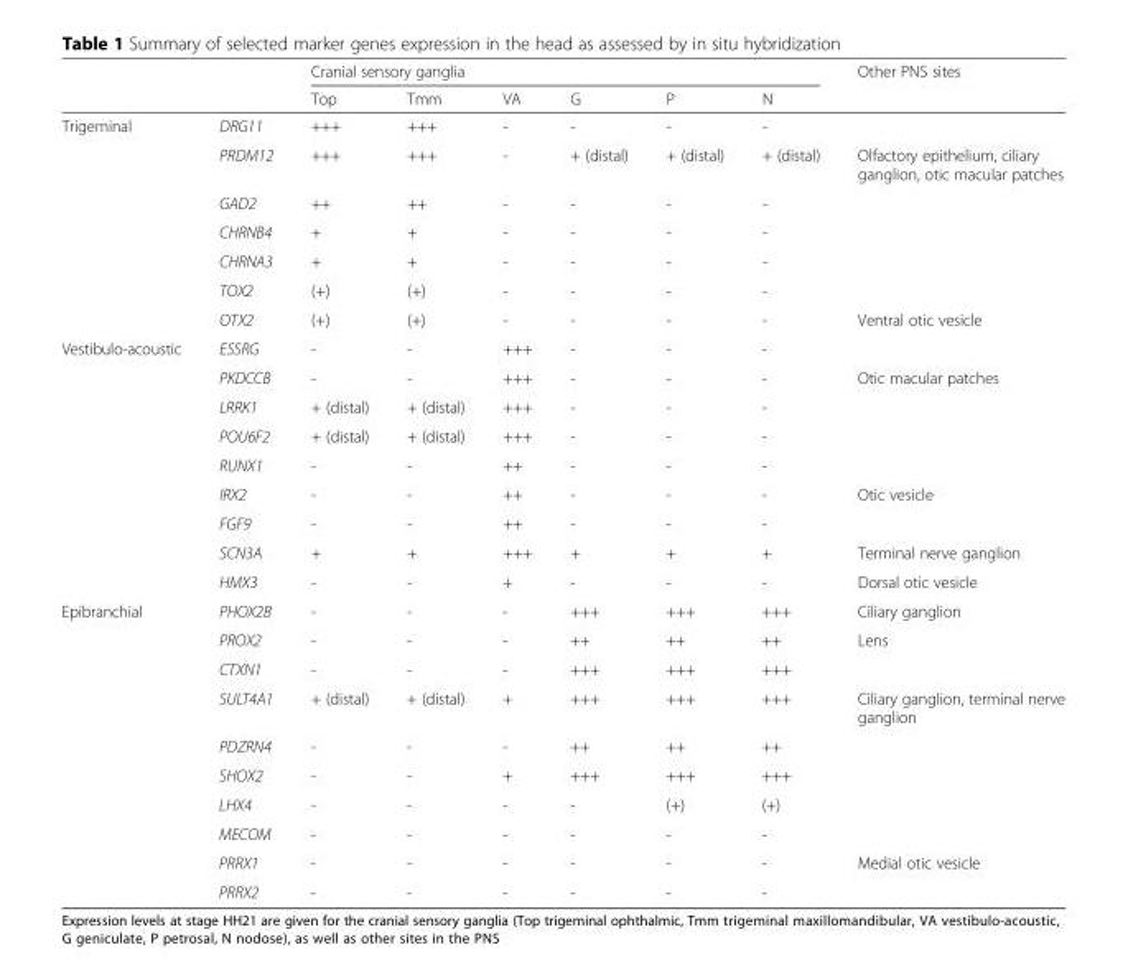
<table><thead><tr><td rowspan="2"></td><td rowspan="2"></td><td colspan="6">Cranial sensory ganglia</td><td rowspan="2">Other PNS sites</td></tr><tr><td>Top</td><td>Tmm</td><td>VA</td><td>G</td><td>P</td><td>N</td></tr></thead><tbody><tr><td rowspan="7">Trigeminal</td><td>DRG11</td><td>+++</td><td>+++</td><td>-</td><td>-</td><td>-</td><td>-</td><td></td></tr><tr><td>PRDM12</td><td>+++</td><td>+++</td><td>-</td><td>+ (distal)</td><td>+ (distal)</td><td>+ (distal)</td><td>Olfactory epithelium, ciliary ganglion, otic macular patches</td></tr><tr><td>GAD2</td><td>++</td><td>++</td><td>-</td><td>-</td><td>-</td><td>-</td><td></td></tr><tr><td>CHRNB4</td><td>+</td><td>+</td><td>-</td><td>-</td><td>-</td><td>-</td><td></td></tr><tr><td>CHRNA3</td><td>+</td><td>+</td><td>-</td><td>-</td><td>-</td><td>-</td><td></td></tr><tr><td>TOX2</td><td>(+)</td><td>(+)</td><td>-</td><td>-</td><td>-</td><td>-</td><td></td></tr><tr><td>OTX2</td><td>(+)</td><td>(+)</td><td>-</td><td>-</td><td>-</td><td>-</td><td>Ventral otic vesicle</td></tr><tr><td rowspan="9">Vestibulo-acoustic</td><td>ESSRG</td><td>-</td><td>-</td><td>+++</td><td>-</td><td>-</td><td>-</td><td></td></tr><tr><td>PKDCCB</td><td>-</td><td>-</td><td>+++</td><td>-</td><td>-</td><td>-</td><td>Otic macular patches</td></tr><tr><td>LRRK1</td><td>+ (distal)</td><td>+ (distal)</td><td>+++</td><td>-</td><td>-</td><td>-</td><td></td></tr><tr><td>POU6F2</td><td>+ (distal)</td><td>+ (distal)</td><td>+++</td><td>-</td><td>-</td><td>-</td><td></td></tr><tr><td>RUNX1</td><td>-</td><td>-</td><td>++</td><td>-</td><td>-</td><td>-</td><td></td></tr><tr><td>IRX2</td><td>-</td><td>-</td><td>++</td><td>-</td><td>-</td><td>-</td><td>Otic vesicle</td></tr><tr><td>FGF9</td><td>-</td><td>-</td><td>++</td><td>-</td><td>-</td><td>-</td><td></td></tr><tr><td>SCN3A</td><td>+</td><td>+</td><td>+++</td><td>+</td><td>+</td><td>+</td><td>Terminal nerve ganglion</td></tr><tr><td>HMX3</td><td>-</td><td>-</td><td>+</td><td>-</td><td>-</td><td>-</td><td>Dorsal otic vesicle</td></tr><tr><td rowspan="10">Epibranchial</td><td>PHOX2B</td><td>-</td><td>-</td><td>-</td><td>+++</td><td>+++</td><td>+++</td><td>Ciliary ganglion</td></tr><tr><td>PROX2</td><td>-</td><td>-</td><td>-</td><td>++</td><td>++</td><td>++</td><td>Lens</td></tr><tr><td>CTXN1</td><td>-</td><td>-</td><td>-</td><td>+++</td><td>+++</td><td>+++</td><td></td></tr><tr><td>SULT4A1</td><td>+ (distal)</td><td>+ (distal)</td><td>+</td><td>+++</td><td>+++</td><td>+++</td><td>Ciliary ganglion, terminal nerve ganglion</td></tr><tr><td>PDZRN4</td><td>-</td><td>-</td><td>-</td><td>++</td><td>++</td><td>++</td><td></td></tr><tr><td>SHOX2</td><td>-</td><td>-</td><td>+</td><td>+++</td><td>+++</td><td>+++</td><td></td></tr><tr><td>LHX4</td><td>-</td><td>-</td><td>-</td><td>-</td><td>(+)</td><td>(+)</td><td></td></tr><tr><td>MECOM</td><td>-</td><td>-</td><td>-</td><td>-</td><td>-</td><td>-</td><td></td></tr><tr><td>PRRX1</td><td>-</td><td>-</td><td>-</td><td>-</td><td>-</td><td>-</td><td>Medial otic vesicle</td></tr><tr><td>PRRX2</td><td>-</td><td>-</td><td>-</td><td>-</td><td>-</td><td>-</td><td></td></tr></tbody></table>